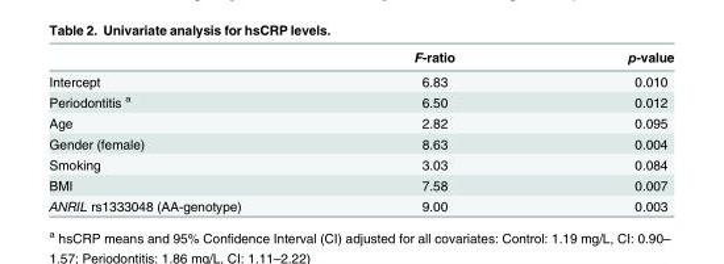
<table><thead><tr><td></td><td>F-ratio</td><td>p-value</td></tr></thead><tbody><tr><td>Intercept</td><td>6.83</td><td>0.010</td></tr><tr><td>Periodontitis <sup>a</sup></td><td>6.50</td><td>0.012</td></tr><tr><td>Age</td><td>2.82</td><td>0.095</td></tr><tr><td>Gender (female)</td><td>8.63</td><td>0.004</td></tr><tr><td>Smoking</td><td>3.03</td><td>0.084</td></tr><tr><td>BMI</td><td>7.58</td><td>0.007</td></tr><tr><td>ANRIL rs1333048 (AA-genotype)</td><td>9.00</td><td>0.003</td></tr></tbody></table>